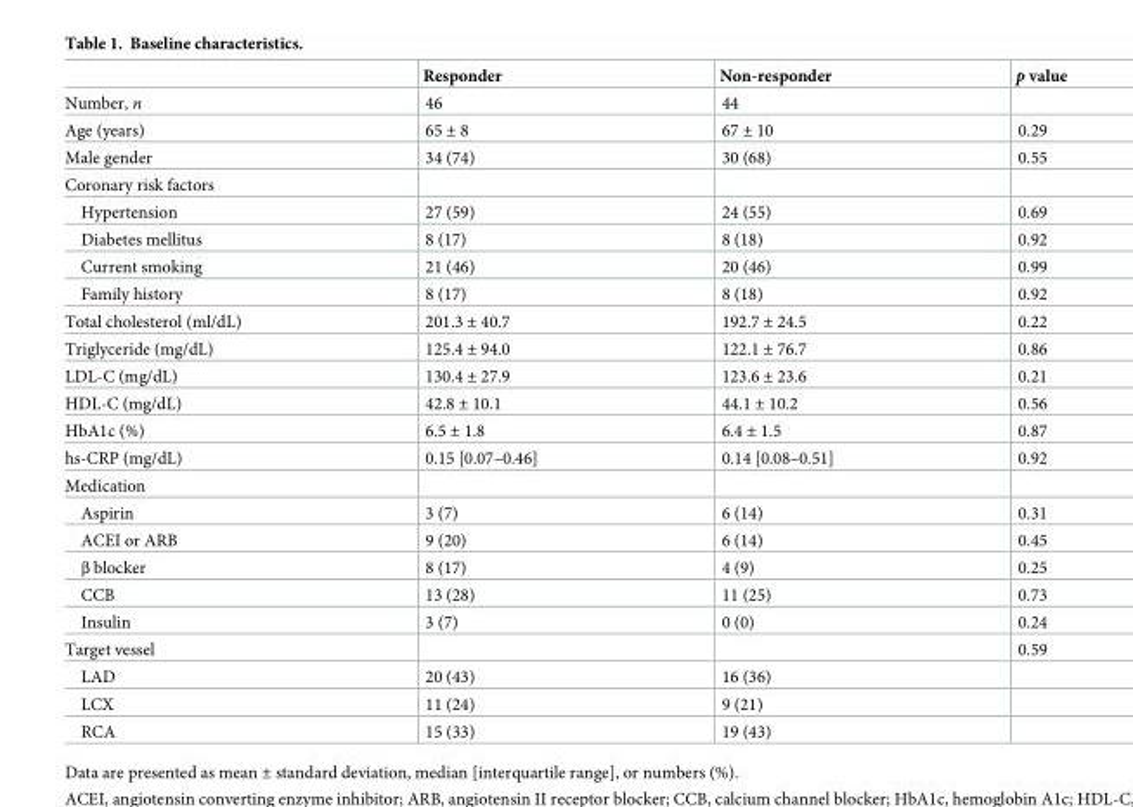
<table><thead><tr><td></td><td>Responder</td><td>Non-responder</td><td>p value</td></tr></thead><tbody><tr><td>Number, n</td><td>46</td><td>44</td><td></td></tr><tr><td>Age (years)</td><td>65 ± 8</td><td>67 ± 10</td><td>0.29</td></tr><tr><td>Male gender</td><td>34 (74)</td><td>30 (68)</td><td>0.55</td></tr><tr><td colspan="4">Coronary risk factors</td></tr><tr><td>Hypertension</td><td>27 (59)</td><td>24 (55)</td><td>0.69</td></tr><tr><td>Diabetes mellitus</td><td>8 (17)</td><td>8 (18)</td><td>0.92</td></tr><tr><td>Current smoking</td><td>21 (46)</td><td>20 (46)</td><td>0.99</td></tr><tr><td>Family history</td><td>8 (17)</td><td>8 (18)</td><td>0.92</td></tr><tr><td>Total cholesterol (ml/dL)</td><td>201.3 ± 40.7</td><td>192.7 ± 24.5</td><td>0.22</td></tr><tr><td>Triglyceride (mg/dL)</td><td>125.4 ± 94.0</td><td>122.1 ± 76.7</td><td>0.86</td></tr><tr><td>LDL-C (mg/dL)</td><td>130.4 ± 27.9</td><td>123.6 ± 23.6</td><td>0.21</td></tr><tr><td>HDL-C (mg/dL)</td><td>42.8 ± 10.1</td><td>44.1 ± 10.2</td><td>0.56</td></tr><tr><td>HbA1c (%)</td><td>6.5 ± 1.8</td><td>6.4 ± 1.5</td><td>0.87</td></tr><tr><td>hs-CRP (mg/dL)</td><td>0.15 [0.07–0.46]</td><td>0.14 [0.08–0.51]</td><td>0.92</td></tr><tr><td colspan="4">Medication</td></tr><tr><td>Aspirin</td><td>3 (7)</td><td>6 (14)</td><td>0.31</td></tr><tr><td>ACEI or ARB</td><td>9 (20)</td><td>6 (14)</td><td>0.45</td></tr><tr><td>β blocker</td><td>8 (17)</td><td>4 (9)</td><td>0.25</td></tr><tr><td>CCB</td><td>13 (28)</td><td>11 (25)</td><td>0.73</td></tr><tr><td>Insulin</td><td>3 (7)</td><td>0 (0)</td><td>0.24</td></tr><tr><td>Target vessel</td><td></td><td></td><td>0.59</td></tr><tr><td>LAD</td><td>20 (43)</td><td>16 (36)</td><td></td></tr><tr><td>LCX</td><td>11 (24)</td><td>9 (21)</td><td></td></tr><tr><td>RCA</td><td>15 (33)</td><td>19 (43)</td><td></td></tr></tbody></table>